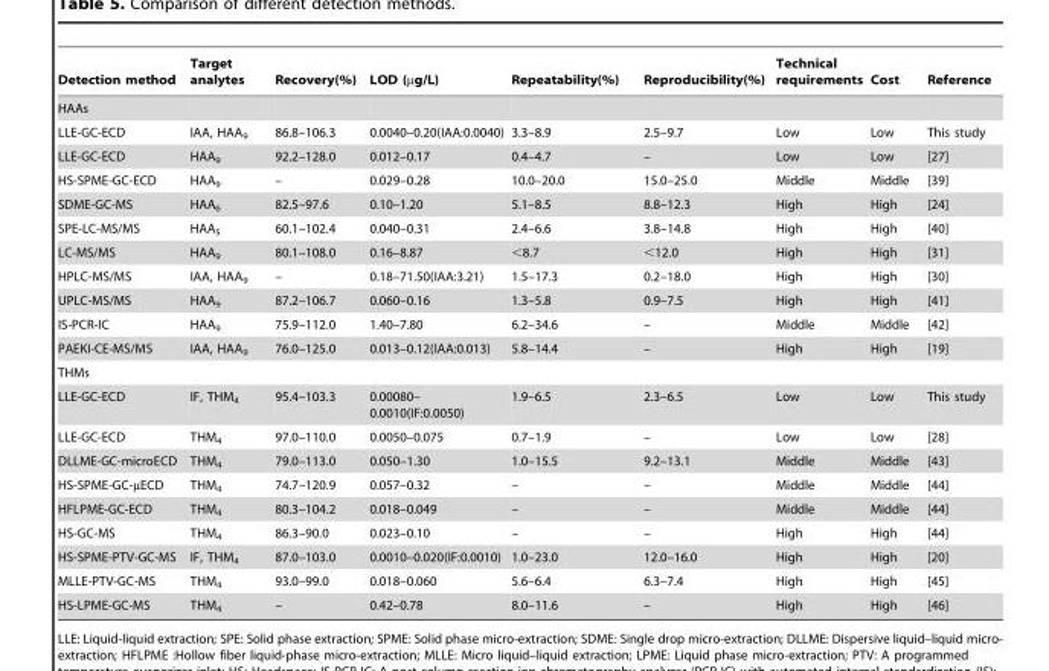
<table><thead><tr><td>Detection method</td><td>Target analytes</td><td>Recovery(%)</td><td>LOD (µg/L)</td><td>Repeatability(%)</td><td>Reproducibility(%)</td><td>Technical requirements</td><td>Cost</td><td>Reference</td></tr></thead><tbody><tr><td colspan="9">HAAs</td></tr><tr><td>LLE-GC-ECD</td><td>IAA, HAA<sub>9</sub></td><td>86.8–106.3</td><td>0.0040–0.20(IAA:0.0040)</td><td>3.3–8.9</td><td>2.5–9.7</td><td>Low</td><td>Low</td><td>This study</td></tr><tr><td>LLE-GC-ECD</td><td>HAA<sub>9</sub></td><td>92.2–128.0</td><td>0.012–0.17</td><td>0.4–4.7</td><td>–</td><td>Low</td><td>Low</td><td>[27]</td></tr><tr><td>HS-SPME-GC-ECD</td><td>HAA<sub>9</sub></td><td>–</td><td>0.029–0.28</td><td>10.0–20.0</td><td>15.0–25.0</td><td>Middle</td><td>Middle</td><td>[39]</td></tr><tr><td>SDME-GC-MS</td><td>HAA<sub>6</sub></td><td>82.5–97.6</td><td>0.10–1.20</td><td>5.1–8.5</td><td>8.8–12.3</td><td>High</td><td>High</td><td>[24]</td></tr><tr><td>SPE-LC-MS/MS</td><td>HAA<sub>5</sub></td><td>60.1–102.4</td><td>0.040–0.31</td><td>2.4–6.6</td><td>3.8–14.8</td><td>High</td><td>High</td><td>[40]</td></tr><tr><td>LC-MS/MS</td><td>HAA<sub>9</sub></td><td>80.1–108.0</td><td>0.16–8.87</td><td>&lt;8.7</td><td>&lt;12.0</td><td>High</td><td>High</td><td>[31]</td></tr><tr><td>HPLC-MS/MS</td><td>IAA, HAA<sub>9</sub></td><td>–</td><td>0.18–71.50(IAA:3.21)</td><td>1.5–17.3</td><td>0.2–18.0</td><td>High</td><td>High</td><td>[30]</td></tr><tr><td>UPLC-MS/MS</td><td>HAA<sub>9</sub></td><td>87.2–106.7</td><td>0.060–0.16</td><td>1.3–5.8</td><td>0.9–7.5</td><td>High</td><td>High</td><td>[41]</td></tr><tr><td>IS-PCR-IC</td><td>HAA<sub>9</sub></td><td>75.9–112.0</td><td>1.40–7.80</td><td>6.2–34.6</td><td>–</td><td>Middle</td><td>Middle</td><td>[42]</td></tr><tr><td>PAEKI-CE-MS/MS</td><td>IAA, HAA<sub>9</sub></td><td>76.0–125.0</td><td>0.013–0.12(IAA:0.013)</td><td>5.8–14.4</td><td>–</td><td>High</td><td>High</td><td>[19]</td></tr><tr><td colspan="9">THMs</td></tr><tr><td>LLE-GC-ECD</td><td>IF, THM<sub>4</sub></td><td>95.4–103.3</td><td>0.00080– 0.0010(IF:0.0050)</td><td>1.9–6.5</td><td>2.3–6.5</td><td>Low</td><td>Low</td><td>This study</td></tr><tr><td>LLE-GC-ECD</td><td>THM<sub>4</sub></td><td>97.0–110.0</td><td>0.0050–0.075</td><td>0.7–1.9</td><td>–</td><td>Low</td><td>Low</td><td>[28]</td></tr><tr><td>DLLME-GC-microECD</td><td>THM<sub>4</sub></td><td>79.0–113.0</td><td>0.050–1.30</td><td>1.0–15.5</td><td>9.2–13.1</td><td>Middle</td><td>Middle</td><td>[43]</td></tr><tr><td>HS-SPME-GC-µECD</td><td>THM<sub>4</sub></td><td>74.7–120.9</td><td>0.057–0.32</td><td>–</td><td>–</td><td>Middle</td><td>Middle</td><td>[44]</td></tr><tr><td>HFLPME-GC-ECD</td><td>THM<sub>4</sub></td><td>80.3–104.2</td><td>0.018–0.049</td><td>–</td><td>–</td><td>Middle</td><td>Middle</td><td>[44]</td></tr><tr><td>HS-GC-MS</td><td>THM<sub>4</sub></td><td>86.3–90.0</td><td>0.023–0.10</td><td>–</td><td>–</td><td>High</td><td>High</td><td>[44]</td></tr><tr><td>HS-SPME-PTV-GC-MS</td><td>IF, THM<sub>4</sub></td><td>87.0–103.0</td><td>0.0010–0.020(IF:0.0010)</td><td>1.0–23.0</td><td>12.0–16.0</td><td>High</td><td>High</td><td>[20]</td></tr><tr><td>MLLE-PTV-GC-MS</td><td>THM<sub>4</sub></td><td>93.0–99.0</td><td>0.018–0.060</td><td>5.6–6.4</td><td>6.3–7.4</td><td>High</td><td>High</td><td>[45]</td></tr><tr><td>HS-LPME-GC-MS</td><td>THM<sub>4</sub></td><td>–</td><td>0.42–0.78</td><td>8.0–11.6</td><td>–</td><td>High</td><td>High</td><td>[46]</td></tr></tbody></table>